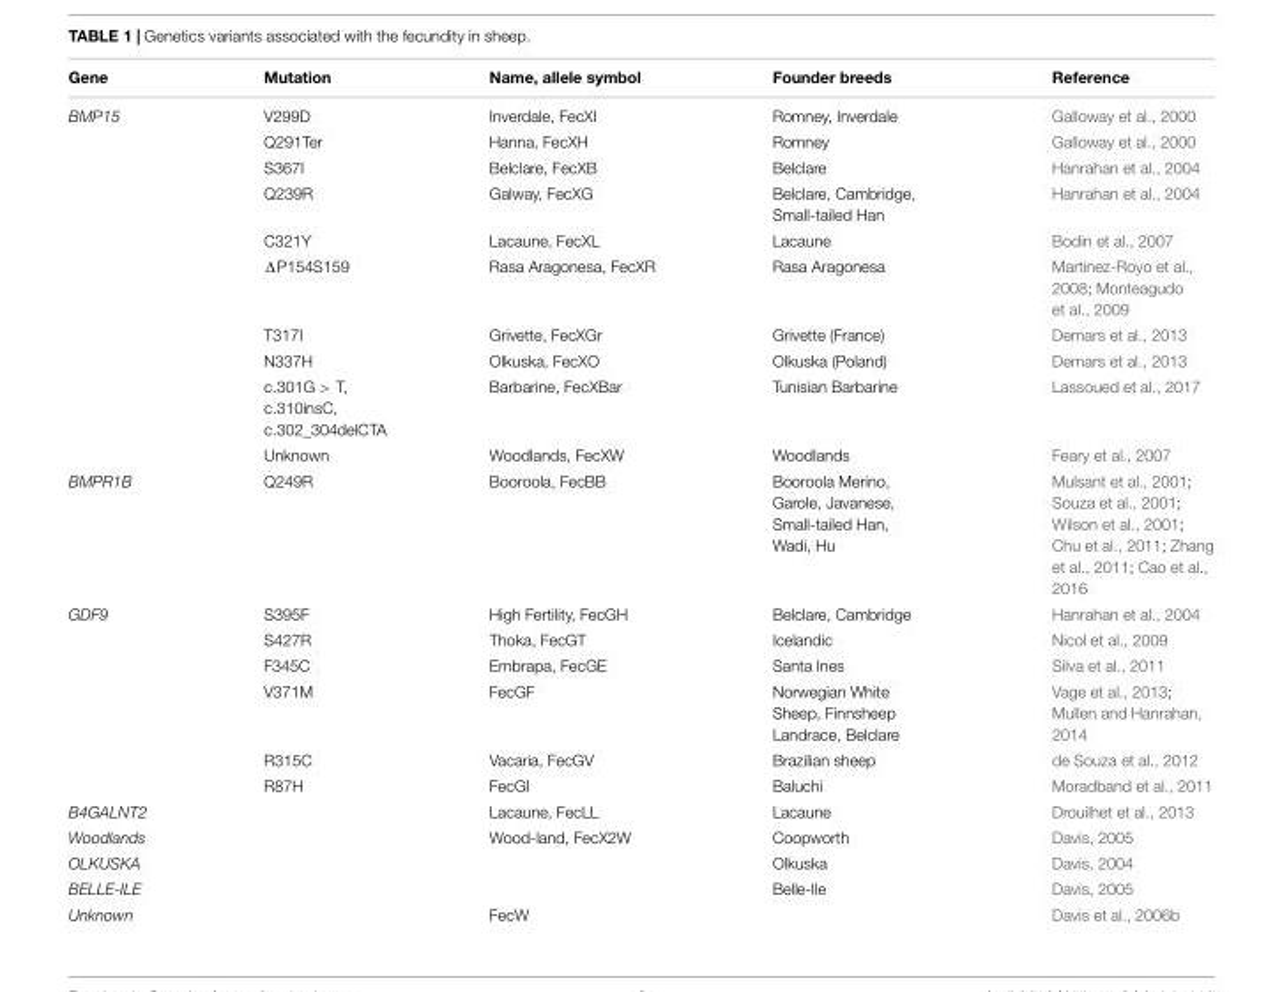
<table><thead><tr><td>Gene</td><td>Mutation</td><td>Name, allele symbol</td><td>Founder breeds</td><td>Reference</td></tr></thead><tbody><tr><td rowspan="10">BMP15</td><td>V299D</td><td>Inverdale, FecXI</td><td>Romney, Inverdale</td><td>Galloway et al., 2000</td></tr><tr><td>Q291Ter</td><td>Hanna, FecXH</td><td>Romney</td><td>Galloway et al., 2000</td></tr><tr><td>S367I</td><td>Belclare, FecXB</td><td>Belclare</td><td>Hanrahan et al., 2004</td></tr><tr><td>Q239R</td><td>Galway, FecXG</td><td>Belclare, Cambridge, Small-tailed Han</td><td>Hanrahan et al., 2004</td></tr><tr><td>C321Y</td><td>Lacaune, FecXL</td><td>Lacaune</td><td>Bodin et al., 2007</td></tr><tr><td>ΔP154S159</td><td>Rasa Aragonesa, FecXR</td><td>Rasa Aragonesa</td><td>Martinez-Royo et al., 2008; Monteagudo et al., 2009</td></tr><tr><td>T317I</td><td>Grivette, FecXGr</td><td>Grivette (France)</td><td>Demars et al., 2013</td></tr><tr><td>N337H</td><td>Olkuska, FecXO</td><td>Olkuska (Poland)</td><td>Demars et al., 2013</td></tr><tr><td>c.301G &gt; T, c.310insC, c.302_304delCTA</td><td>Barbarine, FecXBar</td><td>Tunisian Barbarine</td><td>Lassoued et al., 2017</td></tr><tr><td>Unknown</td><td>Woodlands, FecXW</td><td>Woodlands</td><td>Feary et al., 2007</td></tr><tr><td>BMPR1B</td><td>Q249R</td><td>Booroola, FecBB</td><td>Booroola Merino, Garole, Javanese, Small-tailed Han, Wadi, Hu</td><td>Mulsant et al., 2001; Souza et al., 2001; Wilson et al., 2001; Chu et al., 2011; Zhang et al., 2011; Cao et al., 2016</td></tr><tr><td rowspan="6">GDF9</td><td>S395F</td><td>High Fertility, FecGH</td><td>Belclare, Cambridge</td><td>Hanrahan et al., 2004</td></tr><tr><td>S427R</td><td>Thoka, FecGT</td><td>Icelandic</td><td>Nicol et al., 2009</td></tr><tr><td>F345C</td><td>Embrapa, FecGE</td><td>Santa Ines</td><td>Silva et al., 2011</td></tr><tr><td>V371M</td><td>FecGF</td><td>Norwegian White Sheep, Finnsheep Landrace, Belclare</td><td>Vage et al., 2013; Mullen and Hanrahan, 2014</td></tr><tr><td>R315C</td><td>Vacaria, FecGV</td><td>Brazilian sheep</td><td>de Souza et al., 2012</td></tr><tr><td>R87H</td><td>FecGI</td><td>Baluchi</td><td>Moradband et al., 2011</td></tr><tr><td>B4GALNT2</td><td></td><td>Lacaune, FecLL</td><td>Lacaune</td><td>Drouilhet et al., 2013</td></tr><tr><td>Woodlands</td><td></td><td>Wood-land, FecX2W</td><td>Coopworth</td><td>Davis, 2005</td></tr><tr><td>OLKUSKA</td><td></td><td></td><td>Olkuska</td><td>Davis, 2004</td></tr><tr><td>BELLE-ILE</td><td></td><td></td><td>Belle-Ile</td><td>Davis, 2005</td></tr><tr><td>Unknown</td><td></td><td>FecW</td><td></td><td>Davis et al., 2006b</td></tr></tbody></table>